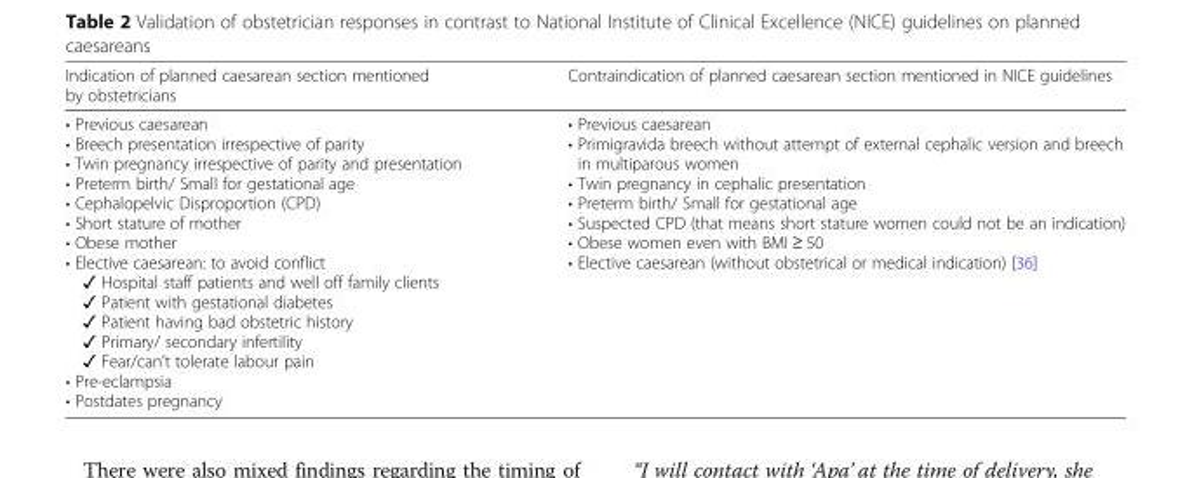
<table><thead><tr><td>Indication of planned caesarean section mentioned by obstetricians</td><td>Contraindication of planned caesarean section mentioned in NICE guidelines</td></tr></thead><tbody><tr><td>• Previous caesarean • Breech presentation irrespective of parity • Twin pregnancy irrespective of parity and presentation • Preterm birth/ Small for gestational age • Cephalopelvic Disproportion (CPD) • Short stature of mother • Obese mother • Elective caesarean: to avoid conflict ✓ Hospital staff patients and well off family clients ✓ Patient with gestational diabetes ✓ Patient having bad obstetric history ✓ Primary/ secondary infertility ✓ Fear/can’t tolerate labour pain • Pre-eclampsia • Postdates pregnancy</td><td>• Previous caesarean • Primigravida breech without attempt of external cephalic version and breech in multiparous women • Twin pregnancy in cephalic presentation • Preterm birth/ Small for gestational age • Suspected CPD (that means short stature women could not be an indication) • Obese women even with BMI ≥ 50 • Elective caesarean (without obstetrical or medical indication) [36]</td></tr></tbody></table>